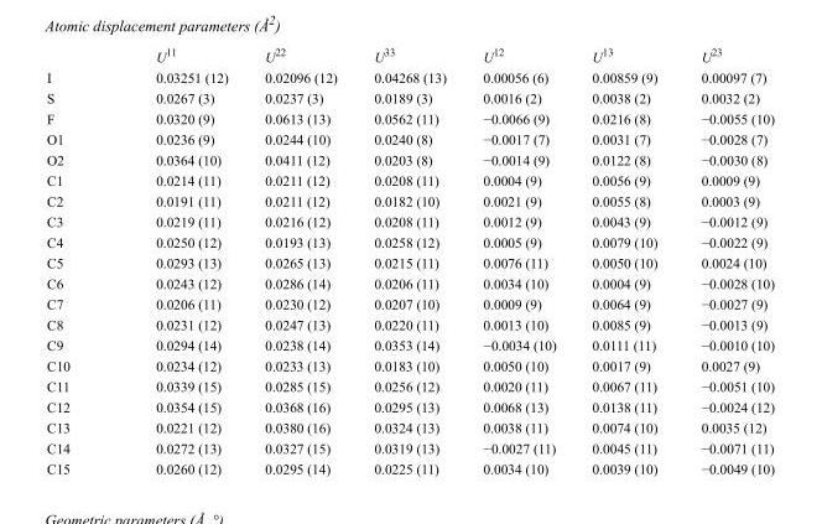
<table><thead><tr><td></td><td>U<sup>11</sup></td><td>U<sup>22</sup></td><td>U<sup>33</sup></td><td>U<sup>12</sup></td><td>U<sup>13</sup></td><td>U<sup>23</sup></td></tr></thead><tbody><tr><td>I</td><td>0.03251 (12)</td><td>0.02096 (12)</td><td>0.04268 (13)</td><td>0.00056 (6)</td><td>0.00859 (9)</td><td>0.00097 (7)</td></tr><tr><td>S</td><td>0.0267 (3)</td><td>0.0237 (3)</td><td>0.0189 (3)</td><td>0.0016 (2)</td><td>0.0038 (2)</td><td>0.0032 (2)</td></tr><tr><td>F</td><td>0.0320 (9)</td><td>0.0613 (13)</td><td>0.0562 (11)</td><td>−0.0066 (9)</td><td>0.0216 (8)</td><td>−0.0055 (10)</td></tr><tr><td>O1</td><td>0.0236 (9)</td><td>0.0244 (10)</td><td>0.0240 (8)</td><td>−0.0017 (7)</td><td>0.0031 (7)</td><td>−0.0028 (7)</td></tr><tr><td>O2</td><td>0.0364 (10)</td><td>0.0411 (12)</td><td>0.0203 (8)</td><td>−0.0014 (9)</td><td>0.0122 (8)</td><td>−0.0030 (8)</td></tr><tr><td>C1</td><td>0.0214 (11)</td><td>0.0211 (12)</td><td>0.0208 (11)</td><td>0.0004 (9)</td><td>0.0056 (9)</td><td>0.0009 (9)</td></tr><tr><td>C2</td><td>0.0191 (11)</td><td>0.0211 (12)</td><td>0.0182 (10)</td><td>0.0021 (9)</td><td>0.0055 (8)</td><td>0.0003 (9)</td></tr><tr><td>C3</td><td>0.0219 (11)</td><td>0.0216 (12)</td><td>0.0208 (11)</td><td>0.0012 (9)</td><td>0.0043 (9)</td><td>−0.0012 (9)</td></tr><tr><td>C4</td><td>0.0250 (12)</td><td>0.0193 (13)</td><td>0.0258 (12)</td><td>0.0005 (9)</td><td>0.0079 (10)</td><td>−0.0022 (9)</td></tr><tr><td>C5</td><td>0.0293 (13)</td><td>0.0265 (13)</td><td>0.0215 (11)</td><td>0.0076 (11)</td><td>0.0050 (10)</td><td>0.0024 (10)</td></tr><tr><td>C6</td><td>0.0243 (12)</td><td>0.0286 (14)</td><td>0.0206 (11)</td><td>0.0034 (10)</td><td>0.0004 (9)</td><td>−0.0028 (10)</td></tr><tr><td>C7</td><td>0.0206 (11)</td><td>0.0230 (12)</td><td>0.0207 (10)</td><td>0.0009 (9)</td><td>0.0064 (9)</td><td>−0.0027 (9)</td></tr><tr><td>C8</td><td>0.0231 (12)</td><td>0.0247 (13)</td><td>0.0220 (11)</td><td>0.0013 (10)</td><td>0.0085 (9)</td><td>−0.0013 (9)</td></tr><tr><td>C9</td><td>0.0294 (14)</td><td>0.0238 (14)</td><td>0.0353 (14)</td><td>−0.0034 (10)</td><td>0.0111 (11)</td><td>−0.0010 (10)</td></tr><tr><td>C10</td><td>0.0234 (12)</td><td>0.0233 (13)</td><td>0.0183 (10)</td><td>0.0050 (10)</td><td>0.0017 (9)</td><td>0.0027 (9)</td></tr><tr><td>C11</td><td>0.0339 (15)</td><td>0.0285 (15)</td><td>0.0256 (12)</td><td>0.0020 (11)</td><td>0.0067 (11)</td><td>−0.0051 (10)</td></tr><tr><td>C12</td><td>0.0354 (15)</td><td>0.0368 (16)</td><td>0.0295 (13)</td><td>0.0068 (13)</td><td>0.0138 (11)</td><td>−0.0024 (12)</td></tr><tr><td>C13</td><td>0.0221 (12)</td><td>0.0380 (16)</td><td>0.0324 (13)</td><td>0.0038 (11)</td><td>0.0074 (10)</td><td>0.0035 (12)</td></tr><tr><td>C14</td><td>0.0272 (13)</td><td>0.0327 (15)</td><td>0.0319 (13)</td><td>−0.0027 (11)</td><td>0.0045 (11)</td><td>−0.0071 (11)</td></tr><tr><td>C15</td><td>0.0260 (12)</td><td>0.0295 (14)</td><td>0.0225 (11)</td><td>0.0034 (10)</td><td>0.0039 (10)</td><td>−0.0049 (10)</td></tr></tbody></table>